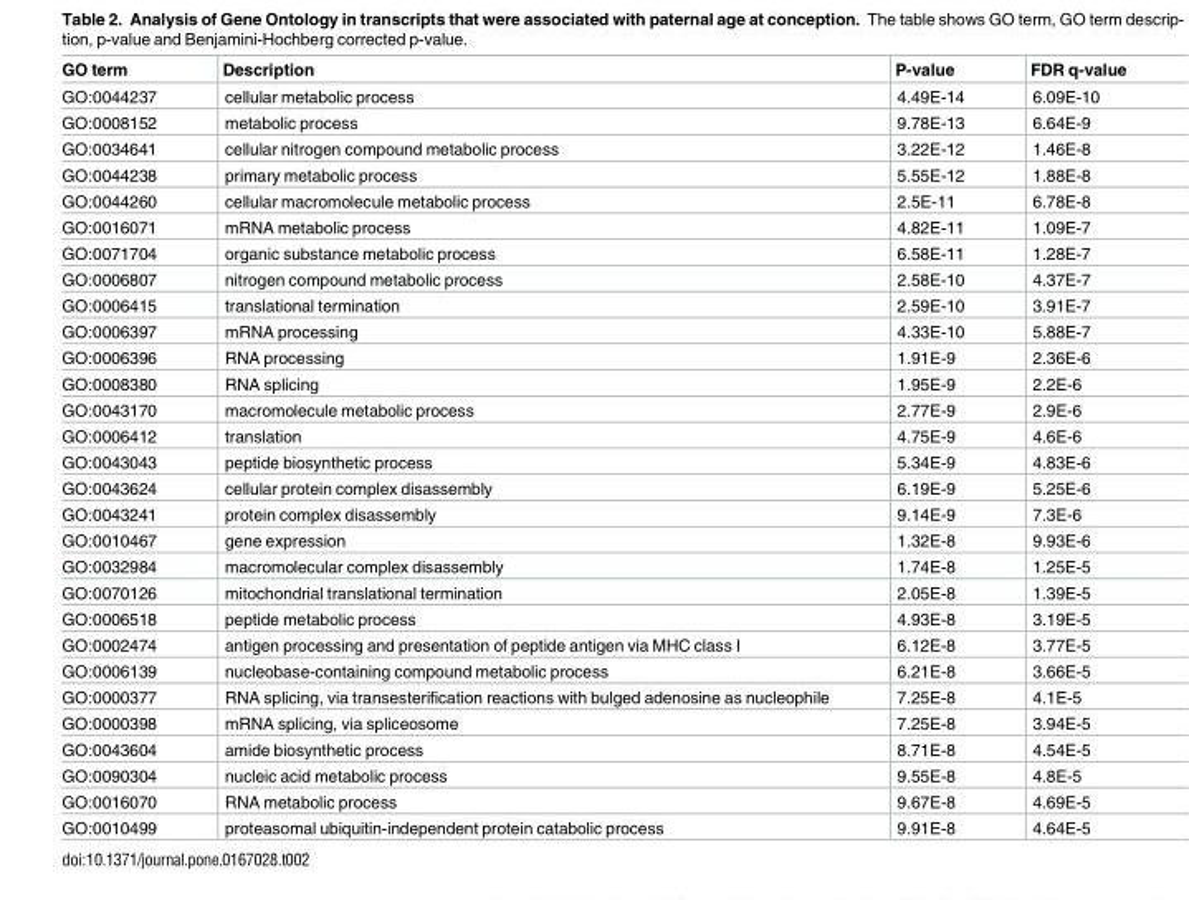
<table><thead><tr><td>GO term</td><td>Description</td><td>P-value</td><td>FDR q-value</td></tr></thead><tbody><tr><td>GO:0044237</td><td>cellular metabolic process</td><td>4.49E-14</td><td>6.09E-10</td></tr><tr><td>GO:0008152</td><td>metabolic process</td><td>9.78E-13</td><td>6.64E-9</td></tr><tr><td>GO:0034641</td><td>cellular nitrogen compound metabolic process</td><td>3.22E-12</td><td>1.46E-8</td></tr><tr><td>GO:0044238</td><td>primary metabolic process</td><td>5.55E-12</td><td>1.88E-8</td></tr><tr><td>GO:0044260</td><td>cellular macromolecule metabolic process</td><td>2.5E-11</td><td>6.78E-8</td></tr><tr><td>GO:0016071</td><td>mRNA metabolic process</td><td>4.82E-11</td><td>1.09E-7</td></tr><tr><td>GO:0071704</td><td>organic substance metabolic process</td><td>6.58E-11</td><td>1.28E-7</td></tr><tr><td>GO:0006807</td><td>nitrogen compound metabolic process</td><td>2.58E-10</td><td>4.37E-7</td></tr><tr><td>GO:0006415</td><td>translational termination</td><td>2.59E-10</td><td>3.91E-7</td></tr><tr><td>GO:0006397</td><td>mRNA processing</td><td>4.33E-10</td><td>5.88E-7</td></tr><tr><td>GO:0006396</td><td>RNA processing</td><td>1.91E-9</td><td>2.36E-6</td></tr><tr><td>GO:0008380</td><td>RNA splicing</td><td>1.95E-9</td><td>2.2E-6</td></tr><tr><td>GO:0043170</td><td>macromolecule metabolic process</td><td>2.77E-9</td><td>2.9E-6</td></tr><tr><td>GO:0006412</td><td>translation</td><td>4.75E-9</td><td>4.6E-6</td></tr><tr><td>GO:0043043</td><td>peptide biosynthetic process</td><td>5.34E-9</td><td>4.83E-6</td></tr><tr><td>GO:0043624</td><td>cellular protein complex disassembly</td><td>6.19E-9</td><td>5.25E-6</td></tr><tr><td>GO:0043241</td><td>protein complex disassembly</td><td>9.14E-9</td><td>7.3E-6</td></tr><tr><td>GO:0010467</td><td>gene expression</td><td>1.32E-8</td><td>9.93E-6</td></tr><tr><td>GO:0032984</td><td>macromolecular complex disassembly</td><td>1.74E-8</td><td>1.25E-5</td></tr><tr><td>GO:0070126</td><td>mitochondrial translational termination</td><td>2.05E-8</td><td>1.39E-5</td></tr><tr><td>GO:0006518</td><td>peptide metabolic process</td><td>4.93E-8</td><td>3.19E-5</td></tr><tr><td>GO:0002474</td><td>antigen processing and presentation of peptide antigen via MHC class I</td><td>6.12E-8</td><td>3.77E-5</td></tr><tr><td>GO:0006139</td><td>nucleobase-containing compound metabolic process</td><td>6.21E-8</td><td>3.66E-5</td></tr><tr><td>GO:0000377</td><td>RNA splicing, via transesterification reactions with bulged adenosine as nucleophile</td><td>7.25E-8</td><td>4.1E-5</td></tr><tr><td>GO:0000398</td><td>mRNA splicing, via spliceosome</td><td>7.25E-8</td><td>3.94E-5</td></tr><tr><td>GO:0043604</td><td>amide biosynthetic process</td><td>8.71E-8</td><td>4.54E-5</td></tr><tr><td>GO:0090304</td><td>nucleic acid metabolic process</td><td>9.55E-8</td><td>4.8E-5</td></tr><tr><td>GO:0016070</td><td>RNA metabolic process</td><td>9.67E-8</td><td>4.69E-5</td></tr><tr><td>GO:0010499</td><td>proteasomal ubiquitin-independent protein catabolic process</td><td>9.91E-8</td><td>4.64E-5</td></tr></tbody></table>